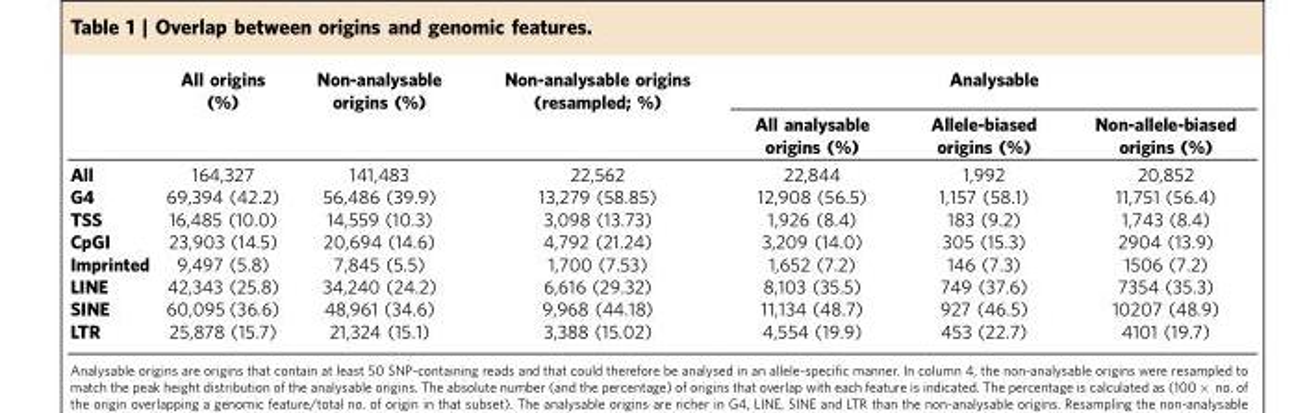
<table><thead><tr><td rowspan="2"></td><td rowspan="2">All origins (%)</td><td rowspan="2">Non-analysable origins (%)</td><td rowspan="2">Non-analysable origins (resampled; %)</td><td colspan="3">Analysable</td></tr><tr><td>All analysable origins (%)</td><td>Allele-biased origins (%)</td><td>Non-allele-biased origins (%)</td></tr></thead><tbody><tr><td>All</td><td>164,327</td><td>141,483</td><td>22,562</td><td>22,844</td><td>1,992</td><td>20,852</td></tr><tr><td>G4</td><td>69,394 (42.2)</td><td>56,486 (39.9)</td><td>13,279 (58.85)</td><td>12,908 (56.5)</td><td>1,157 (58.1)</td><td>11,751 (56.4)</td></tr><tr><td>TSS</td><td>16,485 (10.0)</td><td>14,559 (10.3)</td><td>3,098 (13.73)</td><td>1,926 (8.4)</td><td>183 (9.2)</td><td>1,743 (8.4)</td></tr><tr><td>CpGI</td><td>23,903 (14.5)</td><td>20,694 (14.6)</td><td>4,792 (21.24)</td><td>3,209 (14.0)</td><td>305 (15.3)</td><td>2904 (13.9)</td></tr><tr><td>Imprinted</td><td>9,497 (5.8)</td><td>7,845 (5.5)</td><td>1,700 (7.53)</td><td>1,652 (7.2)</td><td>146 (7.3)</td><td>1506 (7.2)</td></tr><tr><td>LINE</td><td>42,343 (25.8)</td><td>34,240 (24.2)</td><td>6,616 (29.32)</td><td>8,103 (35.5)</td><td>749 (37.6)</td><td>7354 (35.3)</td></tr><tr><td>SINE</td><td>60,095 (36.6)</td><td>48,961 (34.6)</td><td>9,968 (44.18)</td><td>11,134 (48.7)</td><td>927 (46.5)</td><td>10207 (48.9)</td></tr><tr><td>LTR</td><td>25,878 (15.7)</td><td>21,324 (15.1)</td><td>3,388 (15.02)</td><td>4,554 (19.9)</td><td>453 (22.7)</td><td>4101 (19.7)</td></tr></tbody></table>